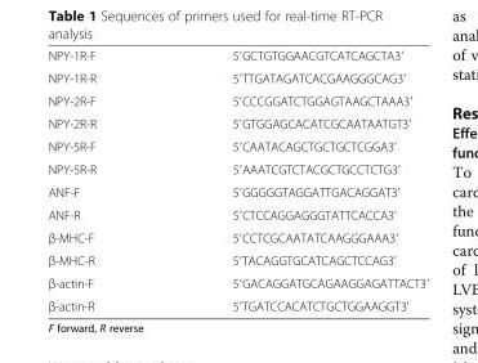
<table><tbody><tr><td>NPY-1R-F</td><td>5′GCTGTGGAACGTCATCAGCTA3′</td></tr><tr><td>NPY-1R-R</td><td>5′TTGATAGATCACGAAGGGCAG3′</td></tr><tr><td>NPY-2R-F</td><td>5′CCCGGATCTGGAGTAAGCTAAA3′</td></tr><tr><td>NPY-2R-R</td><td>5′GTGGAGCACATCGCAATAATGT3′</td></tr><tr><td>NPY-5R-F</td><td>5′CAATACAGCTGCTGCTCGGA3′</td></tr><tr><td>NPY-5R-R</td><td>5′AAATCGTCTACGCTGCCTCTG3′</td></tr><tr><td>ANF-F</td><td>5′GGGGGTAGGATTGACAGGAT3′</td></tr><tr><td>ANF-R</td><td>5′CTCCAGGAGGGTATTCACCA3′</td></tr><tr><td>β-MHC-F</td><td>5′CCTCGCAATATCAAGGGAAA3′</td></tr><tr><td>β-MHC-R</td><td>5′TACAGGTGCATCAGCTCCAG3′</td></tr><tr><td>β-actin-F</td><td>5′GACAGGATGCAGAAGGAGATTACT3′</td></tr><tr><td>β-actin-R</td><td>5′TGATCCACATCTGCTGGAAGGT3′</td></tr></tbody></table>